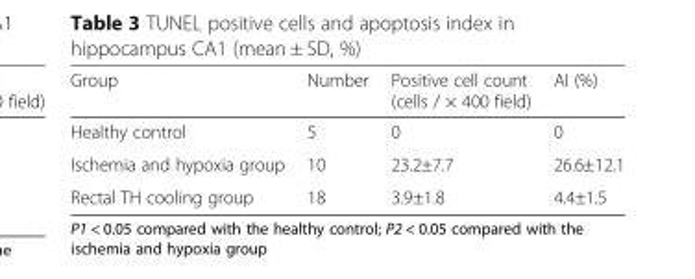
<table><thead><tr><td>Group</td><td>Number</td><td>Positive cell count (cells / × 400 field)</td><td>AI (%)</td></tr></thead><tbody><tr><td>Healthy control</td><td>5</td><td>0</td><td>0</td></tr><tr><td>Ischemia and hypoxia group</td><td>10</td><td>23.2±7.7</td><td>26.6±12.1</td></tr><tr><td>Rectal TH cooling group</td><td>18</td><td>3.9±1.8</td><td>4.4±1.5</td></tr></tbody></table>